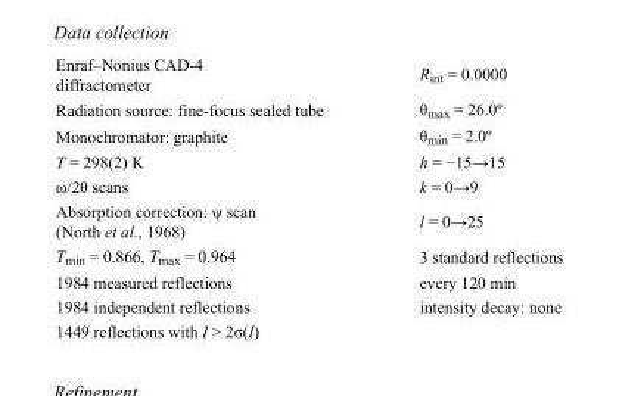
<table><tbody><tr><td>Enraf–Nonius CAD-4 diffractometer</td><td>R<sub>int</sub> = 0.0000</td></tr><tr><td>Radiation source: fine-focus sealed tube</td><td>θ<sub>max</sub> = 26.0º</td></tr><tr><td>Monochromator: graphite</td><td>θ<sub>min</sub> = 2.0º</td></tr><tr><td>T = 298(2) K</td><td>h = −15→15</td></tr><tr><td>ω/2θ scans</td><td>k = 0→9</td></tr><tr><td>Absorption correction: ψ scan (North et al., 1968)</td><td>l = 0→25</td></tr><tr><td>T<sub>min</sub> = 0.866, T<sub>max</sub> = 0.964</td><td>3 standard reflections</td></tr><tr><td>1984 measured reflections</td><td>every 120 min</td></tr><tr><td>1984 independent reflections</td><td>intensity decay: none</td></tr><tr><td>1449 reflections with I &gt; 2σ(I)</td><td></td></tr></tbody></table>